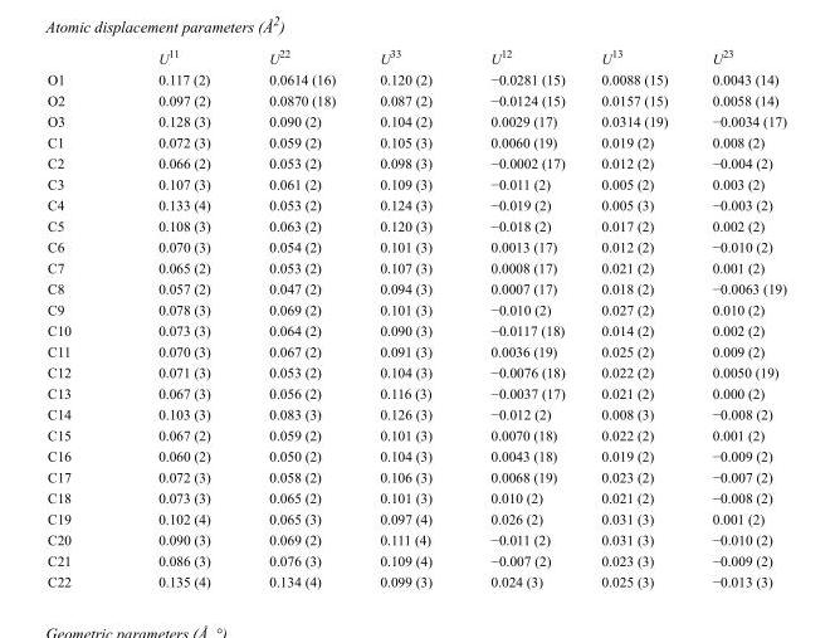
<table><thead><tr><td></td><td>U<sup>11</sup></td><td>U<sup>22</sup></td><td>U<sup>33</sup></td><td>U<sup>12</sup></td><td>U<sup>13</sup></td><td>U<sup>23</sup></td></tr></thead><tbody><tr><td>O1</td><td>0.117 (2)</td><td>0.0614 (16)</td><td>0.120 (2)</td><td>−0.0281 (15)</td><td>0.0088 (15)</td><td>0.0043 (14)</td></tr><tr><td>O2</td><td>0.097 (2)</td><td>0.0870 (18)</td><td>0.087 (2)</td><td>−0.0124 (15)</td><td>0.0157 (15)</td><td>0.0058 (14)</td></tr><tr><td>O3</td><td>0.128 (3)</td><td>0.090 (2)</td><td>0.104 (2)</td><td>0.0029 (17)</td><td>0.0314 (19)</td><td>−0.0034 (17)</td></tr><tr><td>C1</td><td>0.072 (3)</td><td>0.059 (2)</td><td>0.105 (3)</td><td>0.0060 (19)</td><td>0.019 (2)</td><td>0.008 (2)</td></tr><tr><td>C2</td><td>0.066 (2)</td><td>0.053 (2)</td><td>0.098 (3)</td><td>−0.0002 (17)</td><td>0.012 (2)</td><td>−0.004 (2)</td></tr><tr><td>C3</td><td>0.107 (3)</td><td>0.061 (2)</td><td>0.109 (3)</td><td>−0.011 (2)</td><td>0.005 (2)</td><td>0.003 (2)</td></tr><tr><td>C4</td><td>0.133 (4)</td><td>0.053 (2)</td><td>0.124 (3)</td><td>−0.019 (2)</td><td>0.005 (3)</td><td>−0.003 (2)</td></tr><tr><td>C5</td><td>0.108 (3)</td><td>0.063 (2)</td><td>0.120 (3)</td><td>−0.018 (2)</td><td>0.017 (2)</td><td>0.002 (2)</td></tr><tr><td>C6</td><td>0.070 (3)</td><td>0.054 (2)</td><td>0.101 (3)</td><td>0.0013 (17)</td><td>0.012 (2)</td><td>−0.010 (2)</td></tr><tr><td>C7</td><td>0.065 (2)</td><td>0.053 (2)</td><td>0.107 (3)</td><td>0.0008 (17)</td><td>0.021 (2)</td><td>0.001 (2)</td></tr><tr><td>C8</td><td>0.057 (2)</td><td>0.047 (2)</td><td>0.094 (3)</td><td>0.0007 (17)</td><td>0.018 (2)</td><td>−0.0063 (19)</td></tr><tr><td>C9</td><td>0.078 (3)</td><td>0.069 (2)</td><td>0.101 (3)</td><td>−0.010 (2)</td><td>0.027 (2)</td><td>0.010 (2)</td></tr><tr><td>C10</td><td>0.073 (3)</td><td>0.064 (2)</td><td>0.090 (3)</td><td>−0.0117 (18)</td><td>0.014 (2)</td><td>0.002 (2)</td></tr><tr><td>C11</td><td>0.070 (3)</td><td>0.067 (2)</td><td>0.091 (3)</td><td>0.0036 (19)</td><td>0.025 (2)</td><td>0.009 (2)</td></tr><tr><td>C12</td><td>0.071 (3)</td><td>0.053 (2)</td><td>0.104 (3)</td><td>−0.0076 (18)</td><td>0.022 (2)</td><td>0.0050 (19)</td></tr><tr><td>C13</td><td>0.067 (3)</td><td>0.056 (2)</td><td>0.116 (3)</td><td>−0.0037 (17)</td><td>0.021 (2)</td><td>0.000 (2)</td></tr><tr><td>C14</td><td>0.103 (3)</td><td>0.083 (3)</td><td>0.126 (3)</td><td>−0.012 (2)</td><td>0.008 (3)</td><td>−0.008 (2)</td></tr><tr><td>C15</td><td>0.067 (2)</td><td>0.059 (2)</td><td>0.101 (3)</td><td>0.0070 (18)</td><td>0.022 (2)</td><td>0.001 (2)</td></tr><tr><td>C16</td><td>0.060 (2)</td><td>0.050 (2)</td><td>0.104 (3)</td><td>0.0043 (18)</td><td>0.019 (2)</td><td>−0.009 (2)</td></tr><tr><td>C17</td><td>0.072 (3)</td><td>0.058 (2)</td><td>0.106 (3)</td><td>0.0068 (19)</td><td>0.023 (2)</td><td>−0.007 (2)</td></tr><tr><td>C18</td><td>0.073 (3)</td><td>0.065 (2)</td><td>0.101 (3)</td><td>0.010 (2)</td><td>0.021 (2)</td><td>−0.008 (2)</td></tr><tr><td>C19</td><td>0.102 (4)</td><td>0.065 (3)</td><td>0.097 (4)</td><td>0.026 (2)</td><td>0.031 (3)</td><td>0.001 (2)</td></tr><tr><td>C20</td><td>0.090 (3)</td><td>0.069 (2)</td><td>0.111 (4)</td><td>−0.011 (2)</td><td>0.031 (3)</td><td>−0.010 (2)</td></tr><tr><td>C21</td><td>0.086 (3)</td><td>0.076 (3)</td><td>0.109 (4)</td><td>−0.007 (2)</td><td>0.023 (3)</td><td>−0.009 (2)</td></tr><tr><td>C22</td><td>0.135 (4)</td><td>0.134 (4)</td><td>0.099 (3)</td><td>0.024 (3)</td><td>0.025 (3)</td><td>−0.013 (3)</td></tr></tbody></table>